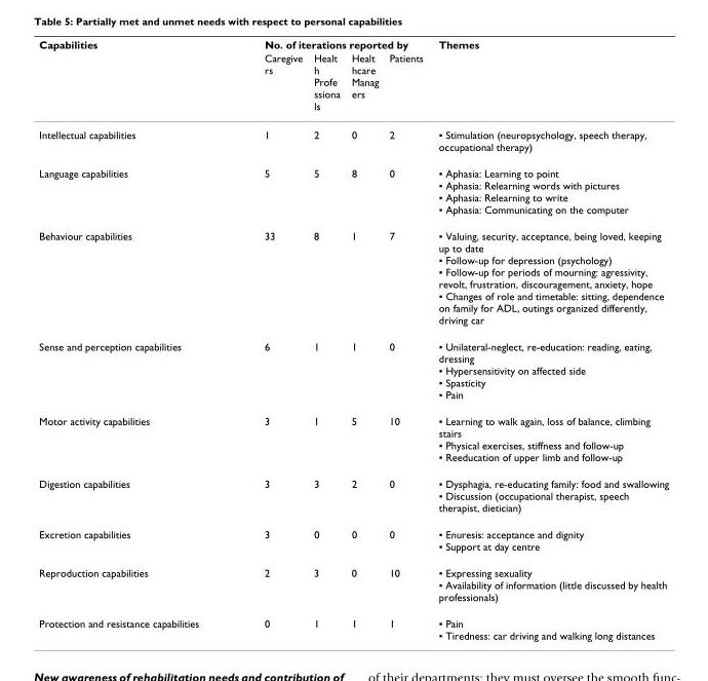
<table><thead><tr><td rowspan="2">Capabilities</td><td colspan="4">No. of iterations reported by</td><td rowspan="2">Themes</td></tr><tr><td>Caregive rs</td><td>Healt h Profe ssiona ls</td><td>Healt hcare Manag ers</td><td>Patients</td></tr></thead><tbody><tr><td>Intellectual capabilities</td><td>1</td><td>2</td><td>0</td><td>2</td><td>▪ Stimulation (neuropsychology, speech therapy, occupational therapy)</td></tr><tr><td>Language capabilities</td><td>5</td><td>5</td><td>8</td><td>0</td><td>▪ Aphasia: Learning to point ▪ Aphasia: Relearning words with pictures ▪ Aphasia: Relearning to write ▪ Aphasia: Communicating on the computer</td></tr><tr><td>Behaviour capabilities</td><td>33</td><td>8</td><td>1</td><td>7</td><td>▪ Valuing, security, acceptance, being loved, keeping up to date ▪ Follow-up for depression (psychology) ▪ Follow-up for periods of mourning: agressivity, revolt, frustration, discouragement, anxiety, hope ▪ Changes of role and timetable: sitting, dependence on family for ADL, outings organized differently, driving car</td></tr><tr><td>Sense and perception capabilities</td><td>6</td><td>1</td><td>1</td><td>0</td><td>▪ Unilateral-neglect, re-education: reading, eating, dressing ▪ Hypersensitivity on affected side ▪ Spasticity ▪ Pain</td></tr><tr><td>Motor activity capabilities</td><td>3</td><td>1</td><td>5</td><td>10</td><td>▪ Learning to walk again, loss of balance, climbing stairs ▪ Physical exercises, stiffness and follow-up ▪ Reeducation of upper limb and follow-up</td></tr><tr><td>Digestion capabilities</td><td>3</td><td>3</td><td>2</td><td>0</td><td>▪ Dysphagia, re-educating family: food and swallowing ▪ Discussion (occupational therapist, speech therapist, dietician)</td></tr><tr><td>Excretion capabilities</td><td>3</td><td>0</td><td>0</td><td>0</td><td>▪ Enuresis: acceptance and dignity ▪ Support at day centre</td></tr><tr><td>Reproduction capabilities</td><td>2</td><td>3</td><td>0</td><td>10</td><td>▪ Expressing sexuality ▪ Availability of information (little discussed by health professionals)</td></tr><tr><td>Protection and resistance capabilities</td><td>0</td><td>1</td><td>1</td><td>1</td><td>▪ Pain ▪ Tiredness: car driving and walking long distances</td></tr></tbody></table>